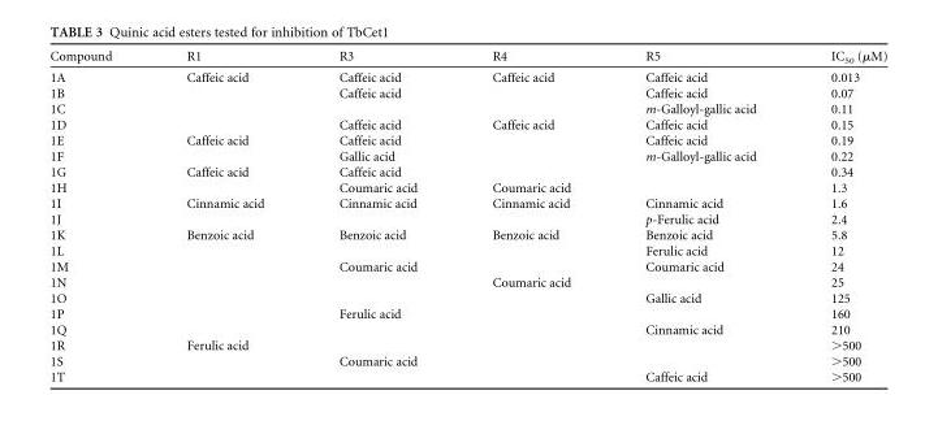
<table><thead><tr><td>Compound</td><td>R1</td><td>R3</td><td>R4</td><td>R5</td><td>IC<sub>50</sub> (µM)</td></tr></thead><tbody><tr><td>1A</td><td>Caffeic acid</td><td>Caffeic acid</td><td>Caffeic acid</td><td>Caffeic acid</td><td>0.013</td></tr><tr><td>1B</td><td></td><td>Caffeic acid</td><td></td><td>Caffeic acid</td><td>0.07</td></tr><tr><td>1C</td><td></td><td></td><td></td><td>m-Galloyl-gallic acid</td><td>0.11</td></tr><tr><td>1D</td><td></td><td>Caffeic acid</td><td>Caffeic acid</td><td>Caffeic acid</td><td>0.15</td></tr><tr><td>1E</td><td>Caffeic acid</td><td>Caffeic acid</td><td></td><td>Caffeic acid</td><td>0.19</td></tr><tr><td>1F</td><td></td><td>Gallic acid</td><td></td><td>m-Galloyl-gallic acid</td><td>0.22</td></tr><tr><td>1G</td><td>Caffeic acid</td><td>Caffeic acid</td><td></td><td></td><td>0.34</td></tr><tr><td>1H</td><td></td><td>Coumaric acid</td><td>Coumaric acid</td><td></td><td>1.3</td></tr><tr><td>1I</td><td>Cinnamic acid</td><td>Cinnamic acid</td><td>Cinnamic acid</td><td>Cinnamic acid</td><td>1.6</td></tr><tr><td>1J</td><td></td><td></td><td></td><td>p-Ferulic acid</td><td>2.4</td></tr><tr><td>1K</td><td>Benzoic acid</td><td>Benzoic acid</td><td>Benzoic acid</td><td>Benzoic acid</td><td>5.8</td></tr><tr><td>1L</td><td></td><td></td><td></td><td>Ferulic acid</td><td>12</td></tr><tr><td>1M</td><td></td><td>Coumaric acid</td><td></td><td>Coumaric acid</td><td>24</td></tr><tr><td>1N</td><td></td><td></td><td>Coumaric acid</td><td></td><td>25</td></tr><tr><td>1O</td><td></td><td></td><td></td><td>Gallic acid</td><td>125</td></tr><tr><td>1P</td><td></td><td>Ferulic acid</td><td></td><td></td><td>160</td></tr><tr><td>1Q</td><td></td><td></td><td></td><td>Cinnamic acid</td><td>210</td></tr><tr><td>1R</td><td>Ferulic acid</td><td></td><td></td><td></td><td>&gt;500</td></tr><tr><td>1S</td><td></td><td>Coumaric acid</td><td></td><td></td><td>&gt;500</td></tr><tr><td>1T</td><td></td><td></td><td></td><td>Caffeic acid</td><td>&gt;500</td></tr></tbody></table>